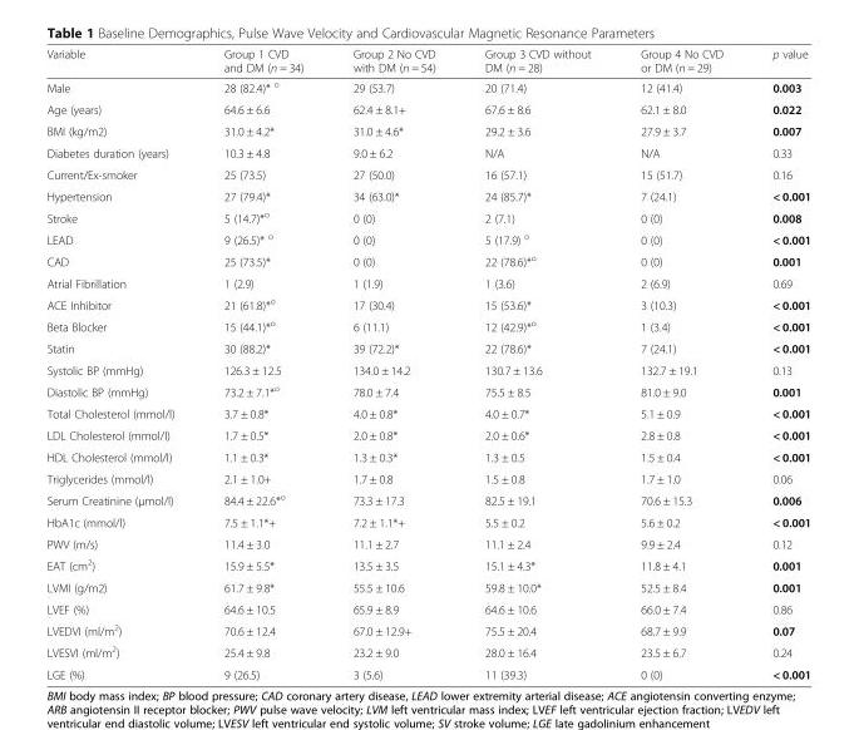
<table><thead><tr><td>Variable</td><td>Group 1 CVD and DM (n = 34)</td><td>Group 2 No CVD with DM (n = 54)</td><td>Group 3 CVD without DM (n = 28)</td><td>Group 4 No CVD or DM (n = 29)</td><td>p value</td></tr></thead><tbody><tr><td>Male</td><td>28 (82.4)* <sup>o</sup></td><td>29 (53.7)</td><td>20 (71.4)</td><td>12 (41.4)</td><td>0.003</td></tr><tr><td>Age (years)</td><td>64.6 ± 6.6</td><td>62.4 ± 8.1+</td><td>67.6 ± 8.6</td><td>62.1 ± 8.0</td><td>0.022</td></tr><tr><td>BMI (kg/m2)</td><td>31.0 ± 4.2*</td><td>31.0 ± 4.6*</td><td>29.2 ± 3.6</td><td>27.9 ± 3.7</td><td>0.007</td></tr><tr><td>Diabetes duration (years)</td><td>10.3 ± 4.8</td><td>9.0 ± 6.2</td><td>N/A</td><td>N/A</td><td>0.33</td></tr><tr><td>Current/Ex-smoker</td><td>25 (73.5)</td><td>27 (50.0)</td><td>16 (57.1)</td><td>15 (51.7)</td><td>0.16</td></tr><tr><td>Hypertension</td><td>27 (79.4)*</td><td>34 (63.0)*</td><td>24 (85.7)*</td><td>7 (24.1)</td><td>&lt; 0.001</td></tr><tr><td>Stroke</td><td>5 (14.7)*<sup>o</sup></td><td>0 (0)</td><td>2 (7.1)</td><td>0 (0)</td><td>0.008</td></tr><tr><td>LEAD</td><td>9 (26.5)* <sup>o</sup></td><td>0 (0)</td><td>5 (17.9) <sup>o</sup></td><td>0 (0)</td><td>&lt; 0.001</td></tr><tr><td>CAD</td><td>25 (73.5)*</td><td>0 (0)</td><td>22 (78.6)*<sup>o</sup></td><td>0 (0)</td><td>0.001</td></tr><tr><td>Atrial Fibrillation</td><td>1 (2.9)</td><td>1 (1.9)</td><td>1 (3.6)</td><td>2 (6.9)</td><td>0.69</td></tr><tr><td>ACE Inhibitor</td><td>21 (61.8)*<sup>o</sup></td><td>17 (30.4)</td><td>15 (53.6)*</td><td>3 (10.3)</td><td>&lt; 0.001</td></tr><tr><td>Beta Blocker</td><td>15 (44.1)*<sup>o</sup></td><td>6 (11.1)</td><td>12 (42.9)*<sup>o</sup></td><td>1 (3.4)</td><td>&lt; 0.001</td></tr><tr><td>Statin</td><td>30 (88.2)*</td><td>39 (72.2)*</td><td>22 (78.6)*</td><td>7 (24.1)</td><td>&lt; 0.001</td></tr><tr><td>Systolic BP (mmHg)</td><td>126.3 ± 12.5</td><td>134.0 ± 14.2</td><td>130.7 ± 13.6</td><td>132.7 ± 19.1</td><td>0.13</td></tr><tr><td>Diastolic BP (mmHg)</td><td>73.2 ± 7.1*<sup>o</sup></td><td>78.0 ± 7.4</td><td>75.5 ± 8.5</td><td>81.0 ± 9.0</td><td>0.001</td></tr><tr><td>Total Cholesterol (mmol/l)</td><td>3.7 ± 0.8*</td><td>4.0 ± 0.8*</td><td>4.0 ± 0.7*</td><td>5.1 ± 0.9</td><td>&lt; 0.001</td></tr><tr><td>LDL Cholesterol (mmol/l)</td><td>1.7 ± 0.5*</td><td>2.0 ± 0.8*</td><td>2.0 ± 0.6*</td><td>2.8 ± 0.8</td><td>&lt; 0.001</td></tr><tr><td>HDL Cholesterol (mmol/l)</td><td>1.1 ± 0.3*</td><td>1.3 ± 0.3*</td><td>1.3 ± 0.5</td><td>1.5 ± 0.4</td><td>&lt; 0.001</td></tr><tr><td>Triglycerides (mmol/l)</td><td>2.1 ± 1.0+</td><td>1.7 ± 0.8</td><td>1.5 ± 0.8</td><td>1.7 ± 1.0</td><td>0.06</td></tr><tr><td>Serum Creatinine (μmol/l)</td><td>84.4 ± 22.6*<sup>o</sup></td><td>73.3 ± 17.3</td><td>82.5 ± 19.1</td><td>70.6 ± 15.3</td><td>0.006</td></tr><tr><td>HbA1c (mmol/l)</td><td>7.5 ± 1.1*+</td><td>7.2 ± 1.1*+</td><td>5.5 ± 0.2</td><td>5.6 ± 0.2</td><td>&lt; 0.001</td></tr><tr><td>PWV (m/s)</td><td>11.4 ± 3.0</td><td>11.1 ± 2.7</td><td>11.1 ± 2.4</td><td>9.9 ± 2.4</td><td>0.12</td></tr><tr><td>EAT (cm<sup>2</sup>)</td><td>15.9 ± 5.5*</td><td>13.5 ± 3.5</td><td>15.1 ± 4.3*</td><td>11.8 ± 4.1</td><td>0.001</td></tr><tr><td>LVMI (g/m2)</td><td>61.7 ± 9.8*</td><td>55.5 ± 10.6</td><td>59.8 ± 10.0*</td><td>52.5 ± 8.4</td><td>0.001</td></tr><tr><td>LVEF (%)</td><td>64.6 ± 10.5</td><td>65.9 ± 8.9</td><td>64.6 ± 10.6</td><td>66.0 ± 7.4</td><td>0.86</td></tr><tr><td>LVEDVI (ml/m<sup>2</sup>)</td><td>70.6 ± 12.4</td><td>67.0 ± 12.9+</td><td>75.5 ± 20.4</td><td>68.7 ± 9.9</td><td>0.07</td></tr><tr><td>LVESVI (ml/m<sup>2</sup>)</td><td>25.4 ± 9.8</td><td>23.2 ± 9.0</td><td>28.0 ± 16.4</td><td>23.5 ± 6.7</td><td>0.24</td></tr><tr><td>LGE (%)</td><td>9 (26.5)</td><td>3 (5.6)</td><td>11 (39.3)</td><td>0 (0)</td><td>&lt; 0.001</td></tr></tbody></table>